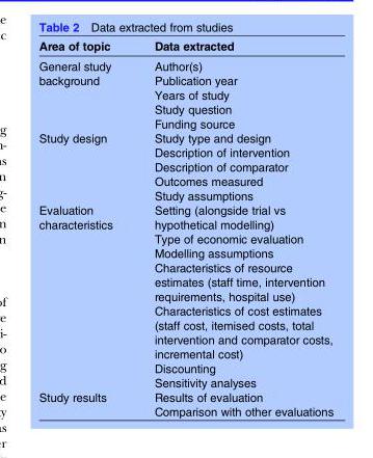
<table><thead><tr><td>Area of topic</td><td>Data extracted</td></tr></thead><tbody><tr><td rowspan="5">General study background</td><td>Author(s)</td></tr><tr><td>Publication year</td></tr><tr><td>Years of study</td></tr><tr><td>Study question</td></tr><tr><td>Funding source</td></tr><tr><td rowspan="5">Study design</td><td>Study type and design</td></tr><tr><td>Description of intervention</td></tr><tr><td>Description of comparator</td></tr><tr><td>Outcomes measured</td></tr><tr><td>Study assumptions</td></tr><tr><td rowspan="7">Evaluation characteristics</td><td>Setting (alongside trial vs hypothetical modelling)</td></tr><tr><td>Type of economic evaluation</td></tr><tr><td>Modelling assumptions</td></tr><tr><td>Characteristics of resource estimates (staff time, intervention requirements, hospital use)</td></tr><tr><td>Characteristics of cost estimates (staff cost, itemised costs, total intervention and comparator costs, incremental cost)</td></tr><tr><td>Discounting</td></tr><tr><td>Sensitivity analyses</td></tr><tr><td rowspan="2">Study results</td><td>Results of evaluation</td></tr><tr><td>Comparison with other evaluations</td></tr></tbody></table>